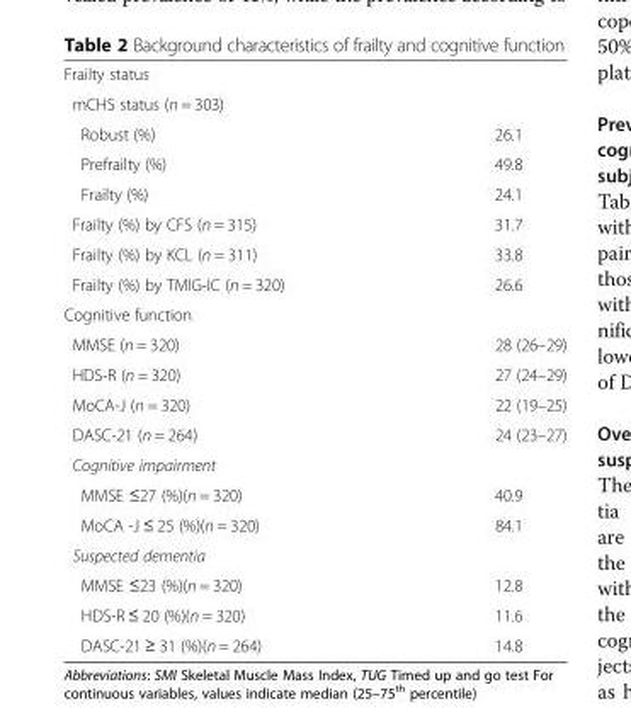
<table><tbody><tr><td colspan="2">Frailty status</td></tr><tr><td colspan="2">mCHS status (n = 303)</td></tr><tr><td>Robust (%)</td><td>26.1</td></tr><tr><td>Prefrailty (%)</td><td>49.8</td></tr><tr><td>Frailty (%)</td><td>24.1</td></tr><tr><td>Frailty (%) by CFS (n = 315)</td><td>31.7</td></tr><tr><td>Frailty (%) by KCL (n = 311)</td><td>33.8</td></tr><tr><td>Frailty (%) by TMIG-IC (n = 320)</td><td>26.6</td></tr><tr><td colspan="2">Cognitive function</td></tr><tr><td>MMSE (n = 320)</td><td>28 (26–29)</td></tr><tr><td>HDS-R (n = 320)</td><td>27 (24–29)</td></tr><tr><td>MoCA-J (n = 320)</td><td>22 (19–25)</td></tr><tr><td>DASC-21 (n = 264)</td><td>24 (23–27)</td></tr><tr><td colspan="2">Cognitive impairment</td></tr><tr><td>MMSE ≤27 (%)(n = 320)</td><td>40.9</td></tr><tr><td>MoCA -J ≤ 25 (%)(n = 320)</td><td>84.1</td></tr><tr><td colspan="2">Suspected dementia</td></tr><tr><td>MMSE ≤23 (%)(n = 320)</td><td>12.8</td></tr><tr><td>HDS-R ≤ 20 (%)(n = 320)</td><td>11.6</td></tr><tr><td>DASC-21 ≥ 31 (%)(n = 264)</td><td>14.8</td></tr></tbody></table>